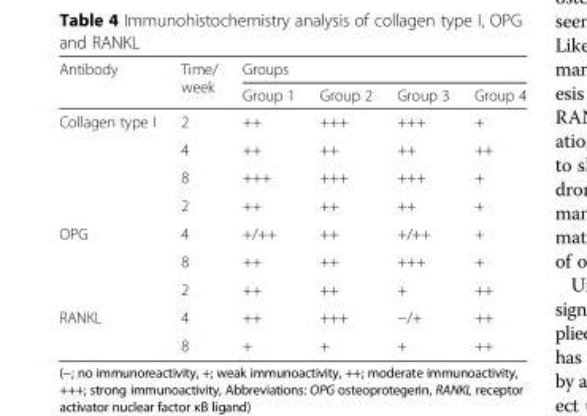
<table><thead><tr><td rowspan="2">Antibody</td><td rowspan="2">Time/ week</td><td colspan="4">Groups</td></tr><tr><td>Group 1</td><td>Group 2</td><td>Group 3</td><td>Group 4</td></tr></thead><tbody><tr><td rowspan="4">Collagen type I</td><td>2</td><td>++</td><td>+++</td><td>+++</td><td>+</td></tr><tr><td>4</td><td>++</td><td>++</td><td>++</td><td>++</td></tr><tr><td>8</td><td>+++</td><td>+++</td><td>+++</td><td>+</td></tr><tr><td>2</td><td>++</td><td>++</td><td>++</td><td>+</td></tr><tr><td rowspan="3">OPG</td><td>4</td><td>+/++</td><td>++</td><td>+/++</td><td>+</td></tr><tr><td>8</td><td>++</td><td>++</td><td>+++</td><td>+</td></tr><tr><td>2</td><td>++</td><td>++</td><td>+</td><td>++</td></tr><tr><td rowspan="2">RANKL</td><td>4</td><td>++</td><td>+++</td><td>−/+</td><td>++</td></tr><tr><td>8</td><td>+</td><td>+</td><td>+</td><td>++</td></tr></tbody></table>